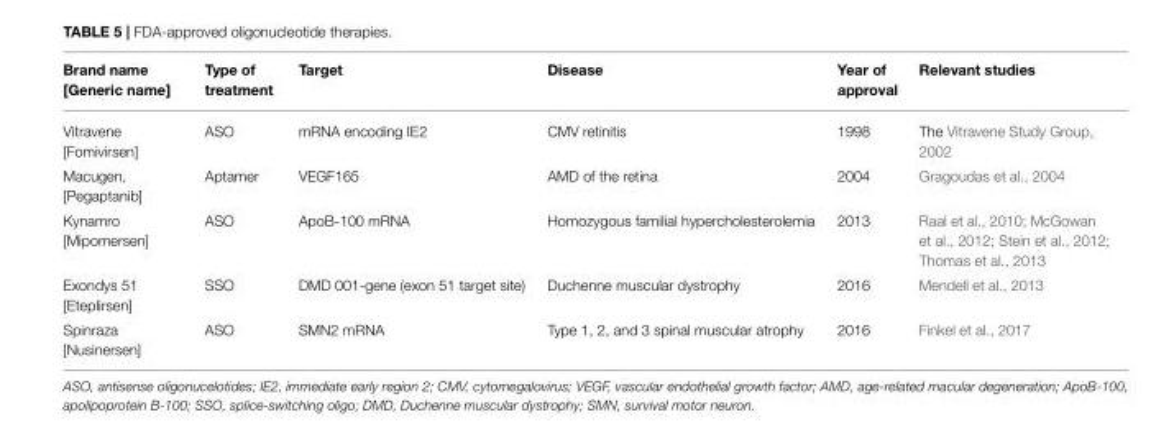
<table><thead><tr><td>Brand name [Generic name]</td><td>Type of treatment</td><td>Target</td><td>Disease</td><td>Year of approval</td><td>Relevant studies</td></tr></thead><tbody><tr><td>Vitravene [Fomivirsen]</td><td>ASO</td><td>mRNA encoding IE2</td><td>CMV retinitis</td><td>1998</td><td>The Vitravene Study Group, 2002</td></tr><tr><td>Macugen, [Pegaptanib]</td><td>Aptamer</td><td>VEGF165</td><td>AMD of the retina</td><td>2004</td><td>Gragoudas et al., 2004</td></tr><tr><td>Kynamro [Mipomersen]</td><td>ASO</td><td>ApoB-100 mRNA</td><td>Homozygous familial hypercholesterolemia</td><td>2013</td><td>Raal et al., 2010; McGowan et al., 2012; Stein et al., 2012; Thomas et al., 2013</td></tr><tr><td>Exondys 51 [Eteplirsen]</td><td>SSO</td><td>DMD 001-gene (exon 51 target site)</td><td>Duchenne muscular dystrophy</td><td>2016</td><td>Mendell et al., 2013</td></tr><tr><td>Spinraza [Nusinersen]</td><td>ASO</td><td>SMN2 mRNA</td><td>Type 1, 2, and 3 spinal muscular atrophy</td><td>2016</td><td>Finkel et al., 2017</td></tr></tbody></table>